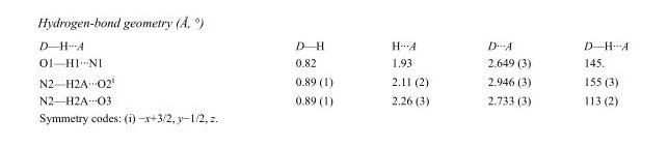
<table><tbody><tr><td>D—H···A</td><td>D—H</td><td>H···A</td><td>D···A</td><td>D—H···A</td></tr><tr><td>O1—H1···N1</td><td>0.82</td><td>1.93</td><td>2.649 (3)</td><td>145.</td></tr><tr><td>N2—H2A···O2<sup>i</sup></td><td>0.89 (1)</td><td>2.11 (2)</td><td>2.946 (3)</td><td>155 (3)</td></tr><tr><td>N2—H2A···O3</td><td>0.89 (1)</td><td>2.26 (3)</td><td>2.733 (3)</td><td>113 (2)</td></tr></tbody></table>